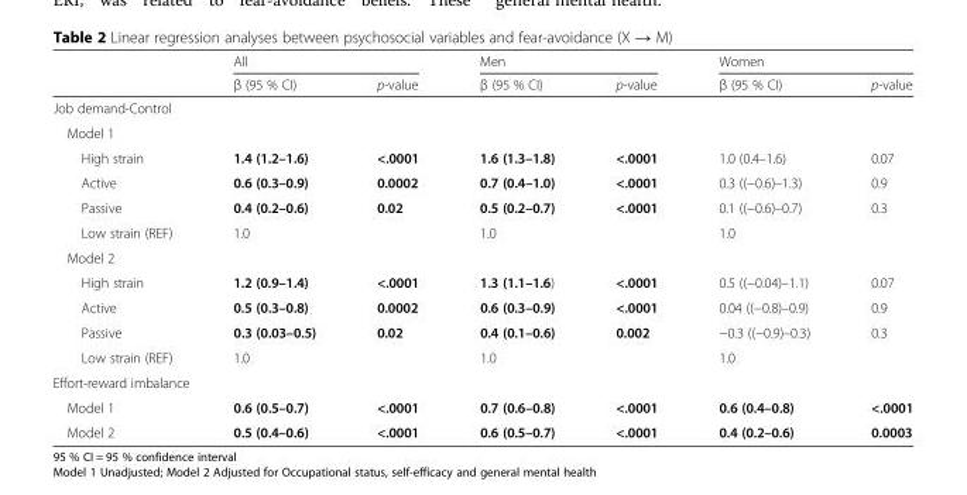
<table><thead><tr><td rowspan="2"></td><td colspan="2">All</td><td colspan="2">Men</td><td colspan="2">Women</td></tr><tr><td>β (95 % CI)</td><td>p-value</td><td>β (95 % CI)</td><td>p-value</td><td>β (95 % CI)</td><td>p-value</td></tr></thead><tbody><tr><td colspan="7">Job demand-Control</td></tr><tr><td colspan="7">Model 1</td></tr><tr><td>High strain</td><td>1.4 (1.2–1.6)</td><td>&lt;.0001</td><td>1.6 (1.3–1.8)</td><td>&lt;.0001</td><td>1.0 (0.4–1.6)</td><td>0.07</td></tr><tr><td>Active</td><td>0.6 (0.3–0.9)</td><td>0.0002</td><td>0.7 (0.4–1.0)</td><td>&lt;.0001</td><td>0.3 ((−0.6)–1.3)</td><td>0.9</td></tr><tr><td>Passive</td><td>0.4 (0.2–0.6)</td><td>0.02</td><td>0.5 (0.2–0.7)</td><td>&lt;.0001</td><td>0.1 ((−0.6)–0.7)</td><td>0.3</td></tr><tr><td>Low strain (REF)</td><td>1.0</td><td></td><td>1.0</td><td></td><td>1.0</td><td></td></tr><tr><td colspan="7">Model 2</td></tr><tr><td>High strain</td><td>1.2 (0.9–1.4)</td><td>&lt;.0001</td><td>1.3 (1.1–1.6)</td><td>&lt;.0001</td><td>0.5 ((−0.04)–1.1)</td><td>0.07</td></tr><tr><td>Active</td><td>0.5 (0.3–0.8)</td><td>0.0002</td><td>0.6 (0.3–0.9)</td><td>&lt;.0001</td><td>0.04 ((−0.8)–0.9)</td><td>0.9</td></tr><tr><td>Passive</td><td>0.3 (0.03–0.5)</td><td>0.02</td><td>0.4 (0.1–0.6)</td><td>0.002</td><td>−0.3 ((−0.9)–0.3)</td><td>0.3</td></tr><tr><td>Low strain (REF)</td><td>1.0</td><td></td><td>1.0</td><td></td><td>1.0</td><td></td></tr><tr><td colspan="7">Effort-reward imbalance</td></tr><tr><td>Model 1</td><td>0.6 (0.5–0.7)</td><td>&lt;.0001</td><td>0.7 (0.6–0.8)</td><td>&lt;.0001</td><td>0.6 (0.4–0.8)</td><td>&lt;.0001</td></tr><tr><td>Model 2</td><td>0.5 (0.4–0.6)</td><td>&lt;.0001</td><td>0.6 (0.5–0.7)</td><td>&lt;.0001</td><td>0.4 (0.2–0.6)</td><td>0.0003</td></tr></tbody></table>